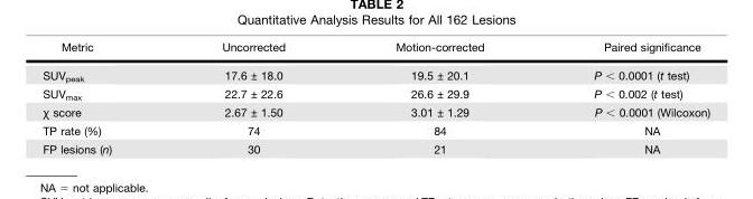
<table><thead><tr><td>Metric</td><td>Uncorrected</td><td>Motion-corrected</td><td>Paired significance</td></tr></thead><tbody><tr><td>SUV<sub>peak</sub></td><td>17.6 ± 18.0</td><td>19.5 ± 20.1</td><td>P &lt; 0.0001 (t test)</td></tr><tr><td>SUV<sub>max</sub></td><td>22.7 ± 22.6</td><td>26.6 ± 29.9</td><td>P &lt; 0.002 (t test)</td></tr><tr><td>χ score</td><td>2.67 ± 1.50</td><td>3.01 ± 1.29</td><td>P &lt; 0.0001 (Wilcoxon)</td></tr><tr><td>TP rate (%)</td><td>74</td><td>84</td><td>NA</td></tr><tr><td>FP lesions (n)</td><td>30</td><td>21</td><td>NA</td></tr></tbody></table>